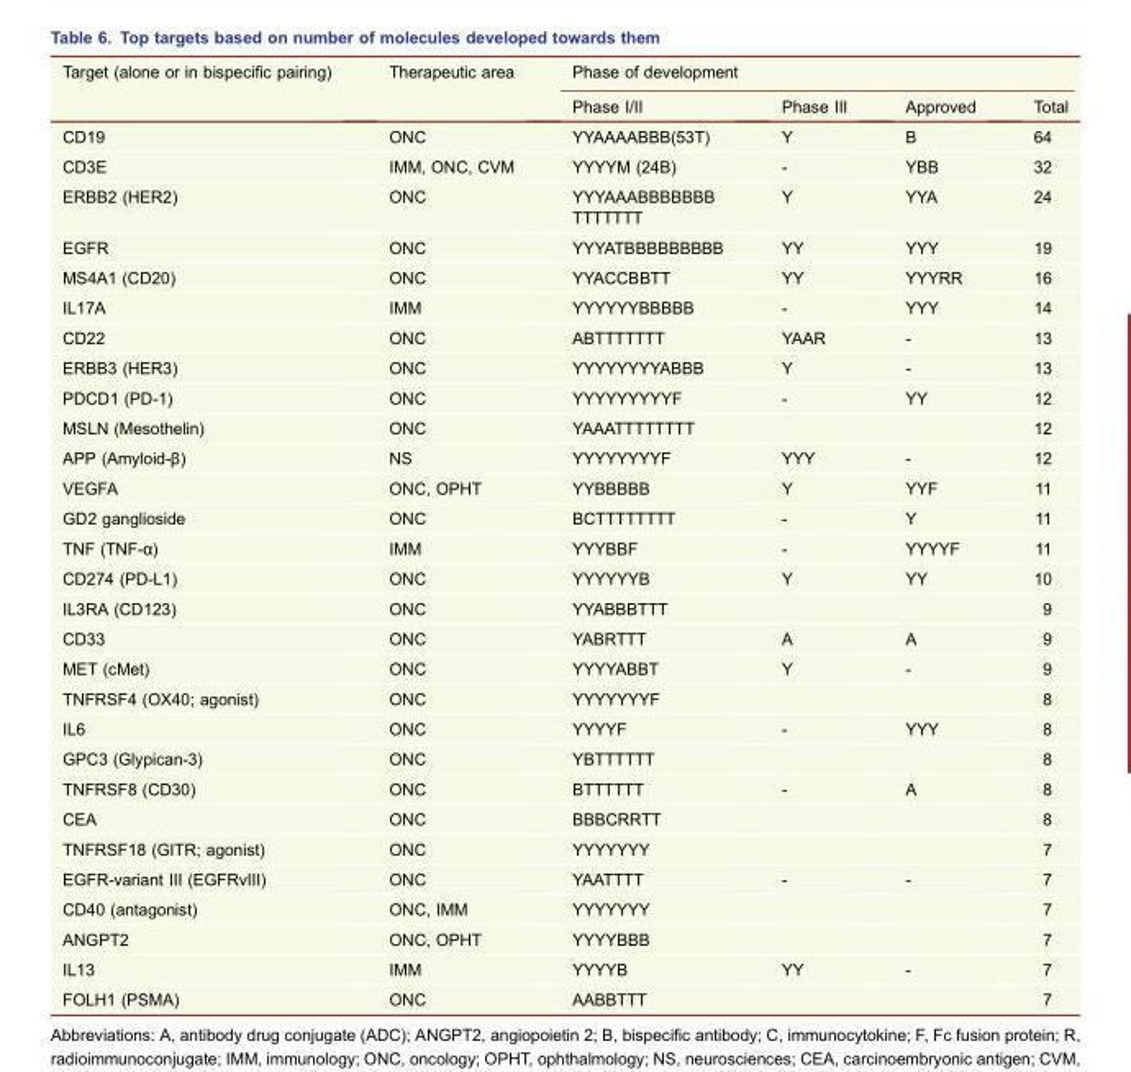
<table><thead><tr><td rowspan="2">Target (alone or in bispecific pairing)</td><td rowspan="2">Therapeutic area</td><td colspan="4">Phase of development</td></tr><tr><td>Phase I/II</td><td>Phase III</td><td>Approved</td><td>Total</td></tr></thead><tbody><tr><td>CD19</td><td>ONC</td><td>YYAAAABBB(53T)</td><td>Y</td><td>B</td><td>64</td></tr><tr><td>CD3E</td><td>IMM, ONC, CVM</td><td>YYYYM (24B)</td><td>-</td><td>YBB</td><td>32</td></tr><tr><td>ERBB2 (HER2)</td><td>ONC</td><td>YYYAAABBBBBBB TTTTTTT</td><td>Y</td><td>YYA</td><td>24</td></tr><tr><td>EGFR</td><td>ONC</td><td>YYYATBBBBBBBBB</td><td>YY</td><td>YYY</td><td>19</td></tr><tr><td>MS4A1 (CD20)</td><td>ONC</td><td>YYACCBBTT</td><td>YY</td><td>YYYRR</td><td>16</td></tr><tr><td>IL17A</td><td>IMM</td><td>YYYYYYBBBBB</td><td>-</td><td>YYY</td><td>14</td></tr><tr><td>CD22</td><td>ONC</td><td>ABTTTTTTT</td><td>YAAR</td><td>-</td><td>13</td></tr><tr><td>ERBB3 (HER3)</td><td>ONC</td><td>YYYYYYYYABBB</td><td>Y</td><td>-</td><td>13</td></tr><tr><td>PDCD1 (PD-1)</td><td>ONC</td><td>YYYYYYYYYF</td><td>-</td><td>YY</td><td>12</td></tr><tr><td>MSLN (Mesothelin)</td><td>ONC</td><td>YAAATTTTTTTT</td><td></td><td></td><td>12</td></tr><tr><td>APP (Amyloid-β)</td><td>NS</td><td>YYYYYYYYF</td><td>YYY</td><td>-</td><td>12</td></tr><tr><td>VEGFA</td><td>ONC, OPHT</td><td>YYBBBBB</td><td>Y</td><td>YYF</td><td>11</td></tr><tr><td>GD2 ganglioside</td><td>ONC</td><td>BCTTTTTTTT</td><td>-</td><td>Y</td><td>11</td></tr><tr><td>TNF (TNF-α)</td><td>IMM</td><td>YYYBBF</td><td>-</td><td>YYYYF</td><td>11</td></tr><tr><td>CD274 (PD-L1)</td><td>ONC</td><td>YYYYYYB</td><td>Y</td><td>YY</td><td>10</td></tr><tr><td>IL3RA (CD123)</td><td>ONC</td><td>YYABBBTTT</td><td></td><td></td><td>9</td></tr><tr><td>CD33</td><td>ONC</td><td>YABRTTT</td><td>A</td><td>A</td><td>9</td></tr><tr><td>MET (cMet)</td><td>ONC</td><td>YYYYABBT</td><td>Y</td><td>-</td><td>9</td></tr><tr><td>TNFRSF4 (OX40; agonist)</td><td>ONC</td><td>YYYYYYYF</td><td></td><td></td><td>8</td></tr><tr><td>IL6</td><td>ONC</td><td>YYYYF</td><td>-</td><td>YYY</td><td>8</td></tr><tr><td>GPC3 (Glypican-3)</td><td>ONC</td><td>YBTTTTTT</td><td></td><td></td><td>8</td></tr><tr><td>TNFRSF8 (CD30)</td><td>ONC</td><td>BTTTTTT</td><td>-</td><td>A</td><td>8</td></tr><tr><td>CEA</td><td>ONC</td><td>BBBCRRTT</td><td></td><td></td><td>8</td></tr><tr><td>TNFRSF18 (GITR; agonist)</td><td>ONC</td><td>YYYYYYY</td><td></td><td></td><td>7</td></tr><tr><td>EGFR-variant III (EGFRvIII)</td><td>ONC</td><td>YAATTTT</td><td>-</td><td>-</td><td>7</td></tr><tr><td>CD40 (antagonist)</td><td>ONC, IMM</td><td>YYYYYYY</td><td></td><td></td><td>7</td></tr><tr><td>ANGPT2</td><td>ONC, OPHT</td><td>YYYYBBB</td><td></td><td></td><td>7</td></tr><tr><td>IL13</td><td>IMM</td><td>YYYYB</td><td>YY</td><td>-</td><td>7</td></tr><tr><td>FOLH1 (PSMA)</td><td>ONC</td><td>AABBTTT</td><td></td><td></td><td>7</td></tr></tbody></table>